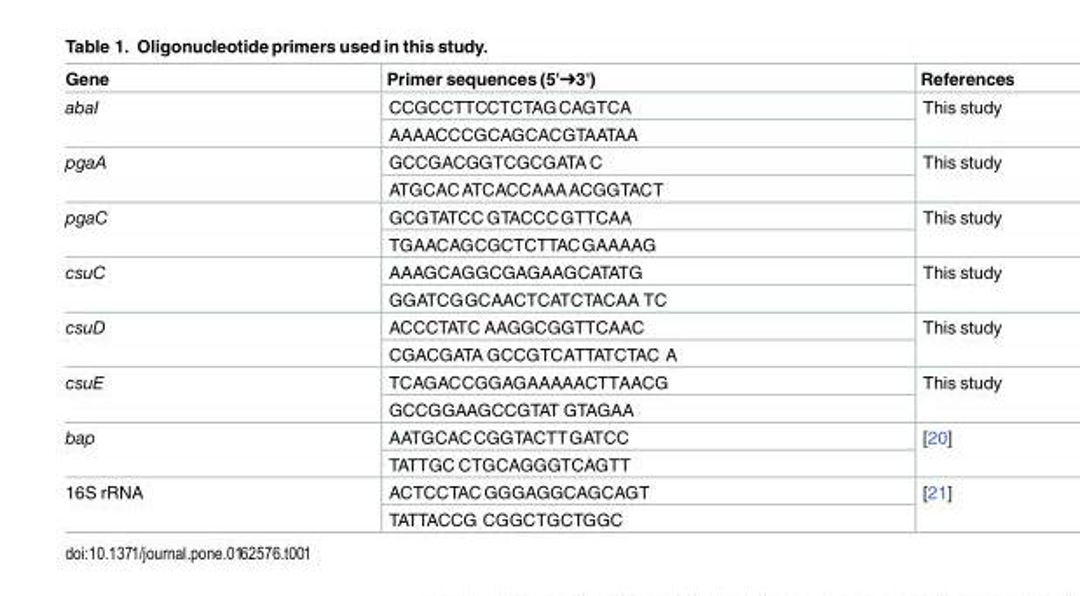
<table><thead><tr><td>Gene</td><td>Primer sequences (5&#x27;➔3&#x27;)</td><td>References</td></tr></thead><tbody><tr><td rowspan="2">abaI</td><td>CCGCCTTCCTCTAGCAGTCA</td><td rowspan="2">This study</td></tr><tr><td>AAAACCCGCAGCACGTAATAA</td></tr><tr><td rowspan="2">pgaA</td><td>GCCGACGGTCGCGATA C</td><td rowspan="2">This study</td></tr><tr><td>ATGCACATCACCAAAACGGTACT</td></tr><tr><td rowspan="2">pgaC</td><td>GCGTATCC GTACCCGTTCAA</td><td rowspan="2">This study</td></tr><tr><td>TGAACAGCGCTCTTACGAAAAG</td></tr><tr><td rowspan="2">csuC</td><td>AAAGCAGGCGAGAAGCATATG</td><td rowspan="2">This study</td></tr><tr><td>GGATCGGCAACTCATCTACAA TC</td></tr><tr><td rowspan="2">csuD</td><td>ACCCTATC AAGGCGGTTCAAC</td><td rowspan="2">This study</td></tr><tr><td>CGACGATA GCCGTCATTATCTAC A</td></tr><tr><td rowspan="2">csuE</td><td>TCAGACCGGAGAAAAACTTAACG</td><td rowspan="2">This study</td></tr><tr><td>GCCGGAAGCCGTAT GTAGAA</td></tr><tr><td rowspan="2">bap</td><td>AATGCACCGGTACTTGATCC</td><td rowspan="2">[20]</td></tr><tr><td>TATTGC CTGCAGGGTCAGTT</td></tr><tr><td rowspan="2">16S rRNA</td><td>ACTCCTACGGGAGGCAGCAGT</td><td rowspan="2">[21]</td></tr><tr><td>TATTACCG CGGCTGCTGGC</td></tr></tbody></table>